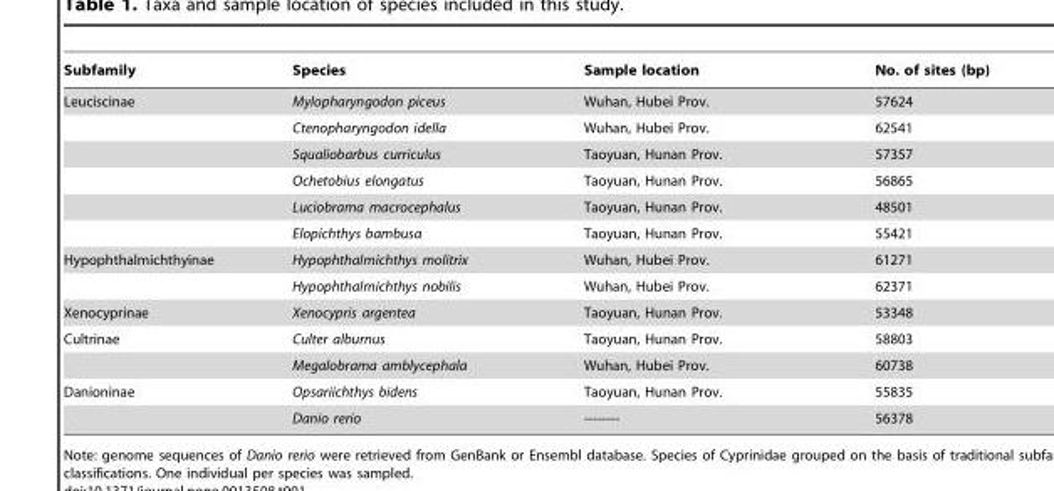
<table><thead><tr><td>Subfamily</td><td>Species</td><td>Sample location</td><td>No. of sites (bp)</td></tr></thead><tbody><tr><td rowspan="6">Leuciscinae</td><td>Mylopharyngodon piceus</td><td>Wuhan, Hubei Prov.</td><td>57624</td></tr><tr><td>Ctenopharyngodon idella</td><td>Wuhan, Hubei Prov.</td><td>62541</td></tr><tr><td>Squaliobarbus curriculus</td><td>Taoyuan, Hunan Prov.</td><td>57357</td></tr><tr><td>Ochetobius elongatus</td><td>Taoyuan, Hunan Prov.</td><td>56865</td></tr><tr><td>Luciobrama macrocephalus</td><td>Taoyuan, Hunan Prov.</td><td>48501</td></tr><tr><td>Elopichthys bambusa</td><td>Taoyuan, Hunan Prov.</td><td>55421</td></tr><tr><td rowspan="2">Hypophthalmichthyinae</td><td>Hypophthalmichthys molitrix</td><td>Wuhan, Hubei Prov.</td><td>61271</td></tr><tr><td>Hypophthalmichthys nobilis</td><td>Wuhan, Hubei Prov.</td><td>62371</td></tr><tr><td>Xenocyprinae</td><td>Xenocypris argentea</td><td>Taoyuan, Hunan Prov.</td><td>53348</td></tr><tr><td rowspan="2">Cultrinae</td><td>Culter alburnus</td><td>Taoyuan, Hunan Prov.</td><td>58803</td></tr><tr><td>Megalobrama amblycephala</td><td>Wuhan, Hubei Prov.</td><td>60738</td></tr><tr><td rowspan="2">Danioninae</td><td>Opsariichthys bidens</td><td>Taoyuan, Hunan Prov.</td><td>55835</td></tr><tr><td>Danio rerio</td><td>--------</td><td>56378</td></tr></tbody></table>